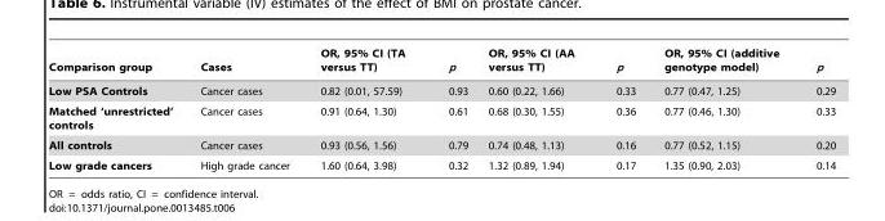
<table><thead><tr><td>Comparison group</td><td>Cases</td><td>OR, 95% CI (TA versus TT)</td><td>p</td><td>OR, 95% CI (AA versus TT)</td><td>p</td><td>OR, 95% CI (additive genotype model)</td><td>p</td></tr></thead><tbody><tr><td>Low PSA Controls</td><td>Cancer cases</td><td>0.82 (0.01, 57.59)</td><td>0.93</td><td>0.60 (0.22, 1.66)</td><td>0.33</td><td>0.77 (0.47, 1.25)</td><td>0.29</td></tr><tr><td>Matched ‘unrestricted’ controls</td><td>Cancer cases</td><td>0.91 (0.64, 1.30)</td><td>0.61</td><td>0.68 (0.30, 1.55)</td><td>0.36</td><td>0.77 (0.46, 1.30)</td><td>0.33</td></tr><tr><td>All controls</td><td>Cancer cases</td><td>0.93 (0.56, 1.56)</td><td>0.79</td><td>0.74 (0.48, 1.13)</td><td>0.16</td><td>0.77 (0.52, 1.15)</td><td>0.20</td></tr><tr><td>Low grade cancers</td><td>High grade cancer</td><td>1.60 (0.64, 3.98)</td><td>0.32</td><td>1.32 (0.89, 1.94)</td><td>0.17</td><td>1.35 (0.90, 2.03)</td><td>0.14</td></tr></tbody></table>